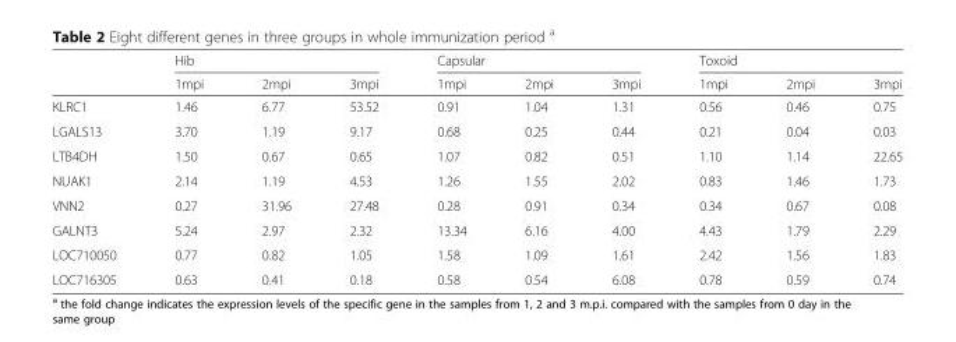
<table><thead><tr><td rowspan="2"></td><td colspan="3">Hib</td><td colspan="3">Capsular</td><td colspan="3">Toxoid</td></tr><tr><td>1mpi</td><td>2mpi</td><td>3mpi</td><td>1mpi</td><td>2mpi</td><td>3mpi</td><td>1mpi</td><td>2mpi</td><td>3mpi</td></tr></thead><tbody><tr><td>KLRC1</td><td>1.46</td><td>6.77</td><td>53.52</td><td>0.91</td><td>1.04</td><td>1.31</td><td>0.56</td><td>0.46</td><td>0.75</td></tr><tr><td>LGALS13</td><td>3.70</td><td>1.19</td><td>9.17</td><td>0.68</td><td>0.25</td><td>0.44</td><td>0.21</td><td>0.04</td><td>0.03</td></tr><tr><td>LTB4DH</td><td>1.50</td><td>0.67</td><td>0.65</td><td>1.07</td><td>0.82</td><td>0.51</td><td>1.10</td><td>1.14</td><td>22.65</td></tr><tr><td>NUAK1</td><td>2.14</td><td>1.19</td><td>4.53</td><td>1.26</td><td>1.55</td><td>2.02</td><td>0.83</td><td>1.46</td><td>1.73</td></tr><tr><td>VNN2</td><td>0.27</td><td>31.96</td><td>27.48</td><td>0.28</td><td>0.91</td><td>0.34</td><td>0.34</td><td>0.67</td><td>0.08</td></tr><tr><td>GALNT3</td><td>5.24</td><td>2.97</td><td>2.32</td><td>13.34</td><td>6.16</td><td>4.00</td><td>4.43</td><td>1.79</td><td>2.29</td></tr><tr><td>LOC710050</td><td>0.77</td><td>0.82</td><td>1.05</td><td>1.58</td><td>1.09</td><td>1.61</td><td>2.42</td><td>1.56</td><td>1.83</td></tr><tr><td>LOC716305</td><td>0.63</td><td>0.41</td><td>0.18</td><td>0.58</td><td>0.54</td><td>6.08</td><td>0.78</td><td>0.59</td><td>0.74</td></tr></tbody></table>